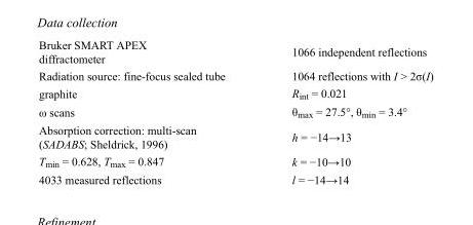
<table><tbody><tr><td>Bruker SMART APEX diffractometer</td><td>1066 independent reflections</td></tr><tr><td>Radiation source: fine-focus sealed tube</td><td>1064 reflections with I &gt; 2σ(I)</td></tr><tr><td>graphite</td><td>R<sub>int</sub> = 0.021</td></tr><tr><td>ω scans</td><td>θ<sub>max</sub> = 27.5°, θ<sub>min</sub> = 3.4°</td></tr><tr><td>Absorption correction: multi-scan (SADABS; Sheldrick, 1996)</td><td>h = −14→13</td></tr><tr><td>T<sub>min</sub> = 0.628, T<sub>max</sub> = 0.847</td><td>k = −10→10</td></tr><tr><td>4033 measured reflections</td><td>l = −14→14</td></tr></tbody></table>